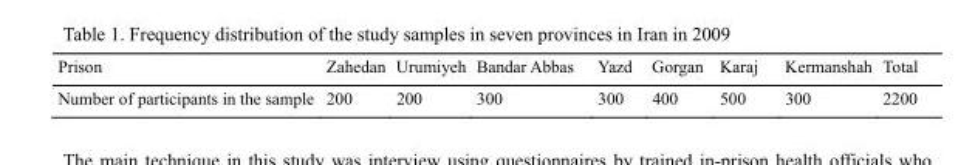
<table><thead><tr><td>Prison</td><td>Zahedan</td><td>Urumiyeh</td><td>Bandar Abbas</td><td>Yazd</td><td>Gorgan</td><td>Karaj</td><td>Kermanshah</td><td>Total</td></tr></thead><tbody><tr><td>Number of participants in the sample</td><td>200</td><td>200</td><td>300</td><td>300</td><td>400</td><td>500</td><td>300</td><td>2200</td></tr></tbody></table>